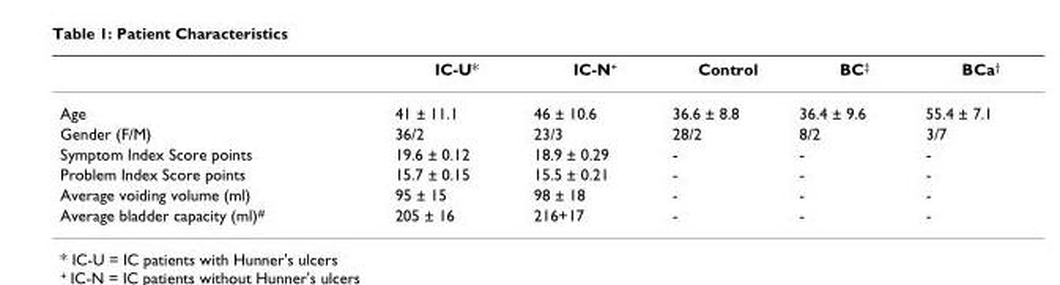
<table><thead><tr><td></td><td>IC-U*</td><td>IC-N<sup>+</sup></td><td>Control</td><td>BC<sup>‡</sup></td><td>BCa<sup>†</sup></td></tr></thead><tbody><tr><td>Age</td><td>41 ± 11.1</td><td>46 ± 10.6</td><td>36.6 ± 8.8</td><td>36.4 ± 9.6</td><td>55.4 ± 7.1</td></tr><tr><td>Gender (F/M)</td><td>36/2</td><td>23/3</td><td>28/2</td><td>8/2</td><td>3/7</td></tr><tr><td>Symptom Index Score points</td><td>19.6 ± 0.12</td><td>18.9 ± 0.29</td><td>-</td><td>-</td><td>-</td></tr><tr><td>Problem Index Score points</td><td>15.7 ± 0.15</td><td>15.5 ± 0.21</td><td>-</td><td>-</td><td>-</td></tr><tr><td>Average voiding volume (ml)</td><td>95 ± 15</td><td>98 ± 18</td><td>-</td><td>-</td><td>-</td></tr><tr><td>Average bladder capacity (ml)<sup>#</sup></td><td>205 ± 16</td><td>216+17</td><td>-</td><td>-</td><td>-</td></tr></tbody></table>